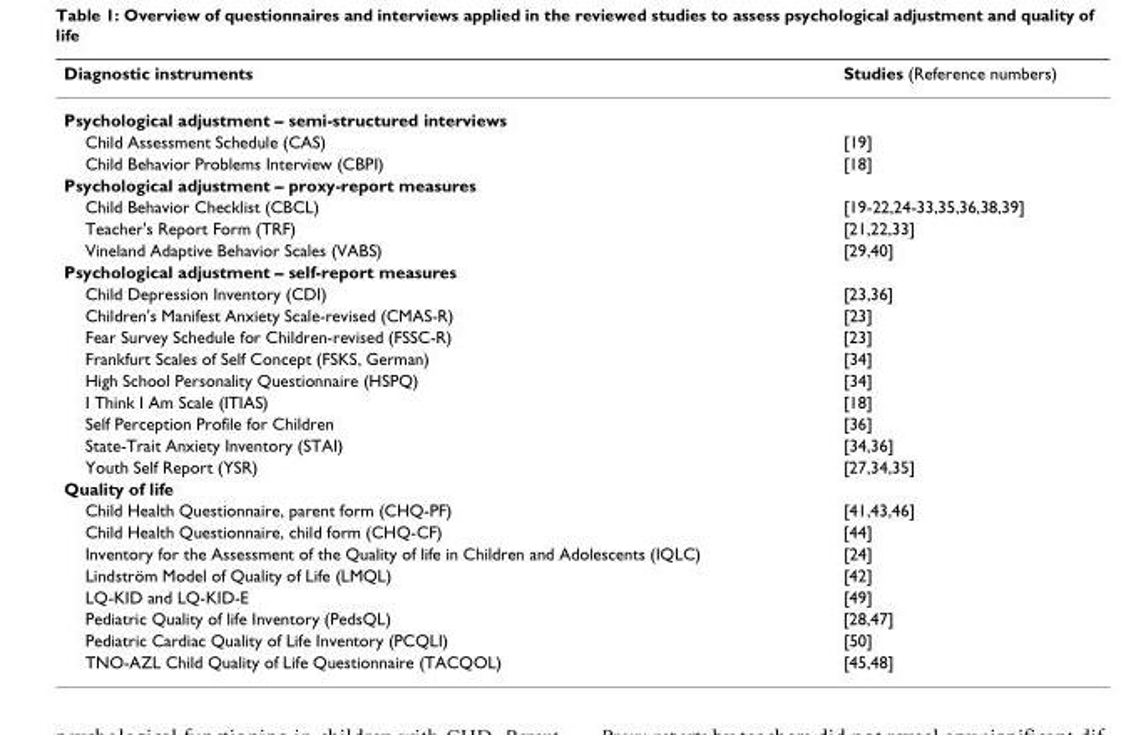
<table><thead><tr><td>Diagnostic instruments</td><td>Studies (Reference numbers)</td></tr></thead><tbody><tr><td colspan="2">Psychological adjustment – semi-structured interviews</td></tr><tr><td>Child Assessment Schedule (CAS)</td><td>[19]</td></tr><tr><td>Child Behavior Problems Interview (CBPI)</td><td>[18]</td></tr><tr><td colspan="2">Psychological adjustment – proxy-report measures</td></tr><tr><td>Child Behavior Checklist (CBCL)</td><td>[19-22,24-33,35,36,38,39]</td></tr><tr><td>Teacher&#x27;s Report Form (TRF)</td><td>[21,22,33]</td></tr><tr><td>Vineland Adaptive Behavior Scales (VABS)</td><td>[29,40]</td></tr><tr><td colspan="2">Psychological adjustment – self-report measures</td></tr><tr><td>Child Depression Inventory (CDI)</td><td>[23,36]</td></tr><tr><td>Children&#x27;s Manifest Anxiety Scale-revised (CMAS-R)</td><td>[23]</td></tr><tr><td>Fear Survey Schedule for Children-revised (FSSC-R)</td><td>[23]</td></tr><tr><td>Frankfurt Scales of Self Concept (FSKS, German)</td><td>[34]</td></tr><tr><td>High School Personality Questionnaire (HSPQ)</td><td>[34]</td></tr><tr><td>I Think I Am Scale (ITIAS)</td><td>[18]</td></tr><tr><td>Self Perception Profile for Children</td><td>[36]</td></tr><tr><td>State-Trait Anxiety Inventory (STAI)</td><td>[34,36]</td></tr><tr><td>Youth Self Report (YSR)</td><td>[27,34,35]</td></tr><tr><td colspan="2">Quality of life</td></tr><tr><td>Child Health Questionnaire, parent form (CHQ-PF)</td><td>[41,43,46]</td></tr><tr><td>Child Health Questionnaire, child form (CHQ-CF)</td><td>[44]</td></tr><tr><td>Inventory for the Assessment of the Quality of life in Children and Adolescents (IQLC)</td><td>[24]</td></tr><tr><td>Lindström Model of Quality of Life (LMQL)</td><td>[42]</td></tr><tr><td>LQ-KID and LQ-KID-E</td><td>[49]</td></tr><tr><td>Pediatric Quality of life Inventory (PedsQL)</td><td>[28,47]</td></tr><tr><td>Pediatric Cardiac Quality of Life Inventory (PCQLI)</td><td>[50]</td></tr><tr><td>TNO-AZL Child Quality of Life Questionnaire (TACQOL)</td><td>[45,48]</td></tr></tbody></table>